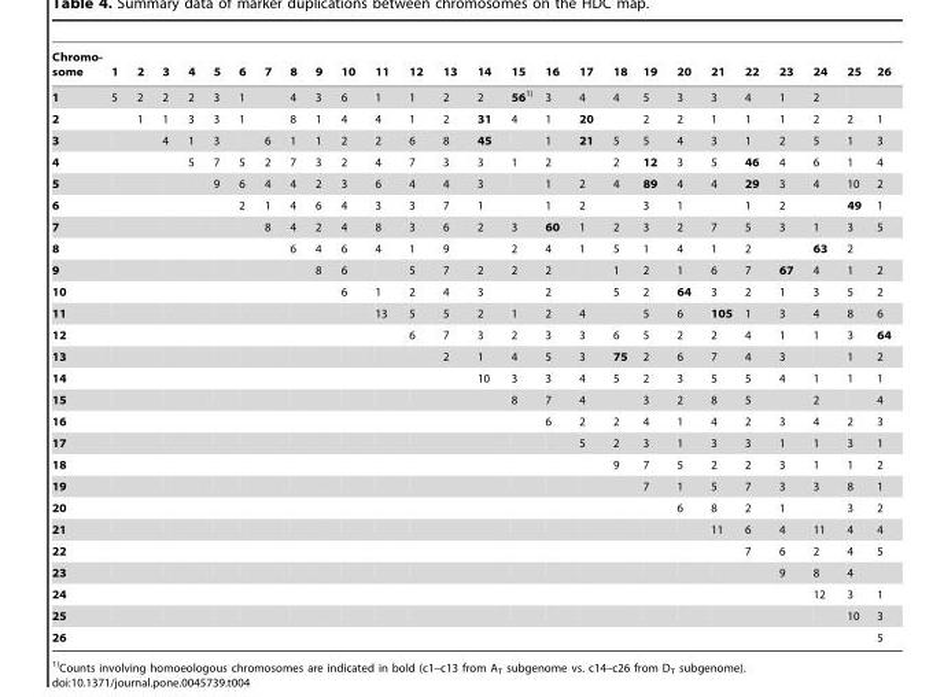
<table><thead><tr><td>Chromo- some</td><td>1</td><td>2</td><td>3</td><td>4</td><td>5</td><td>6</td><td>7</td><td>8</td><td>9</td><td>10</td><td>11</td><td>12</td><td>13</td><td>14</td><td>15</td><td>16</td><td>17</td><td>18</td><td>19</td><td>20</td><td>21</td><td>22</td><td>23</td><td>24</td><td>25</td><td>26</td></tr></thead><tbody><tr><td>1</td><td>5</td><td>2</td><td>2</td><td>2</td><td>3</td><td>1</td><td></td><td>4</td><td>3</td><td>6</td><td>1</td><td>1</td><td>2</td><td>2</td><td>561)</td><td>3</td><td>4</td><td>4</td><td>5</td><td>3</td><td>3</td><td>4</td><td>1</td><td>2</td><td></td><td></td></tr><tr><td>2</td><td></td><td>1</td><td>1</td><td>3</td><td>3</td><td>1</td><td></td><td>8</td><td>1</td><td>4</td><td>4</td><td>1</td><td>2</td><td>31</td><td>4</td><td>1</td><td>20</td><td></td><td>2</td><td>2</td><td>1</td><td>1</td><td>1</td><td>2</td><td>2</td><td>1</td></tr><tr><td>3</td><td></td><td></td><td>4</td><td>1</td><td>3</td><td></td><td>6</td><td>1</td><td>1</td><td>2</td><td>2</td><td>6</td><td>8</td><td>45</td><td></td><td>1</td><td>21</td><td>5</td><td>5</td><td>4</td><td>3</td><td>1</td><td>2</td><td>5</td><td>1</td><td>3</td></tr><tr><td>4</td><td></td><td></td><td></td><td>5</td><td>7</td><td>5</td><td>2</td><td>7</td><td>3</td><td>2</td><td>4</td><td>7</td><td>3</td><td>3</td><td>1</td><td>2</td><td></td><td>2</td><td>12</td><td>3</td><td>5</td><td>46</td><td>4</td><td>6</td><td>1</td><td>4</td></tr><tr><td>5</td><td></td><td></td><td></td><td></td><td>9</td><td>6</td><td>4</td><td>4</td><td>2</td><td>3</td><td>6</td><td>4</td><td>4</td><td>3</td><td></td><td>1</td><td>2</td><td>4</td><td>89</td><td>4</td><td>4</td><td>29</td><td>3</td><td>4</td><td>10</td><td>2</td></tr><tr><td>6</td><td></td><td></td><td></td><td></td><td></td><td>2</td><td>1</td><td>4</td><td>6</td><td>4</td><td>3</td><td>3</td><td>7</td><td>1</td><td></td><td>1</td><td>2</td><td></td><td>3</td><td>1</td><td></td><td>1</td><td>2</td><td></td><td>49</td><td>1</td></tr><tr><td>7</td><td></td><td></td><td></td><td></td><td></td><td></td><td>8</td><td>4</td><td>2</td><td>4</td><td>8</td><td>3</td><td>6</td><td>2</td><td>3</td><td>60</td><td>1</td><td>2</td><td>3</td><td>2</td><td>7</td><td>5</td><td>3</td><td>1</td><td>3</td><td>5</td></tr><tr><td>8</td><td></td><td></td><td></td><td></td><td></td><td></td><td></td><td>6</td><td>4</td><td>6</td><td>4</td><td>1</td><td>9</td><td></td><td>2</td><td>4</td><td>1</td><td>5</td><td>1</td><td>4</td><td>1</td><td>2</td><td></td><td>63</td><td>2</td><td></td></tr><tr><td>9</td><td></td><td></td><td></td><td></td><td></td><td></td><td></td><td></td><td>8</td><td>6</td><td></td><td>5</td><td>7</td><td>2</td><td>2</td><td>2</td><td></td><td>1</td><td>2</td><td>1</td><td>6</td><td>7</td><td>67</td><td>4</td><td>1</td><td>2</td></tr><tr><td>10</td><td></td><td></td><td></td><td></td><td></td><td></td><td></td><td></td><td></td><td>6</td><td>1</td><td>2</td><td>4</td><td>3</td><td></td><td>2</td><td></td><td>5</td><td>2</td><td>64</td><td>3</td><td>2</td><td>1</td><td>3</td><td>5</td><td>2</td></tr><tr><td>11</td><td></td><td></td><td></td><td></td><td></td><td></td><td></td><td></td><td></td><td></td><td>13</td><td>5</td><td>5</td><td>2</td><td>1</td><td>2</td><td>4</td><td></td><td>5</td><td>6</td><td>105</td><td>1</td><td>3</td><td>4</td><td>8</td><td>6</td></tr><tr><td>12</td><td></td><td></td><td></td><td></td><td></td><td></td><td></td><td></td><td></td><td></td><td></td><td>6</td><td>7</td><td>3</td><td>2</td><td>3</td><td>3</td><td>6</td><td>5</td><td>2</td><td>2</td><td>4</td><td>1</td><td>1</td><td>3</td><td>64</td></tr><tr><td>13</td><td></td><td></td><td></td><td></td><td></td><td></td><td></td><td></td><td></td><td></td><td></td><td></td><td>2</td><td>1</td><td>4</td><td>5</td><td>3</td><td>75</td><td>2</td><td>6</td><td>7</td><td>4</td><td>3</td><td></td><td>1</td><td>2</td></tr><tr><td>14</td><td></td><td></td><td></td><td></td><td></td><td></td><td></td><td></td><td></td><td></td><td></td><td></td><td></td><td>10</td><td>3</td><td>3</td><td>4</td><td>5</td><td>2</td><td>3</td><td>5</td><td>5</td><td>4</td><td>1</td><td>1</td><td>1</td></tr><tr><td>15</td><td></td><td></td><td></td><td></td><td></td><td></td><td></td><td></td><td></td><td></td><td></td><td></td><td></td><td></td><td>8</td><td>7</td><td>4</td><td></td><td>3</td><td>2</td><td>8</td><td>5</td><td></td><td>2</td><td></td><td>4</td></tr><tr><td>16</td><td></td><td></td><td></td><td></td><td></td><td></td><td></td><td></td><td></td><td></td><td></td><td></td><td></td><td></td><td></td><td>6</td><td>2</td><td>2</td><td>4</td><td>1</td><td>4</td><td>2</td><td>3</td><td>4</td><td>2</td><td>3</td></tr><tr><td>17</td><td></td><td></td><td></td><td></td><td></td><td></td><td></td><td></td><td></td><td></td><td></td><td></td><td></td><td></td><td></td><td></td><td>5</td><td>2</td><td>3</td><td>1</td><td>3</td><td>3</td><td>1</td><td>1</td><td>3</td><td>1</td></tr><tr><td>18</td><td></td><td></td><td></td><td></td><td></td><td></td><td></td><td></td><td></td><td></td><td></td><td></td><td></td><td></td><td></td><td></td><td></td><td>9</td><td>7</td><td>5</td><td>2</td><td>2</td><td>3</td><td>1</td><td>1</td><td>2</td></tr><tr><td>19</td><td></td><td></td><td></td><td></td><td></td><td></td><td></td><td></td><td></td><td></td><td></td><td></td><td></td><td></td><td></td><td></td><td></td><td></td><td>7</td><td>1</td><td>5</td><td>7</td><td>3</td><td>3</td><td>8</td><td>1</td></tr><tr><td>20</td><td></td><td></td><td></td><td></td><td></td><td></td><td></td><td></td><td></td><td></td><td></td><td></td><td></td><td></td><td></td><td></td><td></td><td></td><td></td><td>6</td><td>8</td><td>2</td><td>1</td><td></td><td>3</td><td>2</td></tr><tr><td>21</td><td></td><td></td><td></td><td></td><td></td><td></td><td></td><td></td><td></td><td></td><td></td><td></td><td></td><td></td><td></td><td></td><td></td><td></td><td></td><td></td><td>11</td><td>6</td><td>4</td><td>11</td><td>4</td><td>4</td></tr><tr><td>22</td><td></td><td></td><td></td><td></td><td></td><td></td><td></td><td></td><td></td><td></td><td></td><td></td><td></td><td></td><td></td><td></td><td></td><td></td><td></td><td></td><td></td><td>7</td><td>6</td><td>2</td><td>4</td><td>5</td></tr><tr><td>23</td><td></td><td></td><td></td><td></td><td></td><td></td><td></td><td></td><td></td><td></td><td></td><td></td><td></td><td></td><td></td><td></td><td></td><td></td><td></td><td></td><td></td><td></td><td>9</td><td>8</td><td>4</td><td></td></tr><tr><td>24</td><td></td><td></td><td></td><td></td><td></td><td></td><td></td><td></td><td></td><td></td><td></td><td></td><td></td><td></td><td></td><td></td><td></td><td></td><td></td><td></td><td></td><td></td><td></td><td>12</td><td>3</td><td>1</td></tr><tr><td>25</td><td></td><td></td><td></td><td></td><td></td><td></td><td></td><td></td><td></td><td></td><td></td><td></td><td></td><td></td><td></td><td></td><td></td><td></td><td></td><td></td><td></td><td></td><td></td><td></td><td>10</td><td>3</td></tr><tr><td>26</td><td></td><td></td><td></td><td></td><td></td><td></td><td></td><td></td><td></td><td></td><td></td><td></td><td></td><td></td><td></td><td></td><td></td><td></td><td></td><td></td><td></td><td></td><td></td><td></td><td></td><td>5</td></tr></tbody></table>